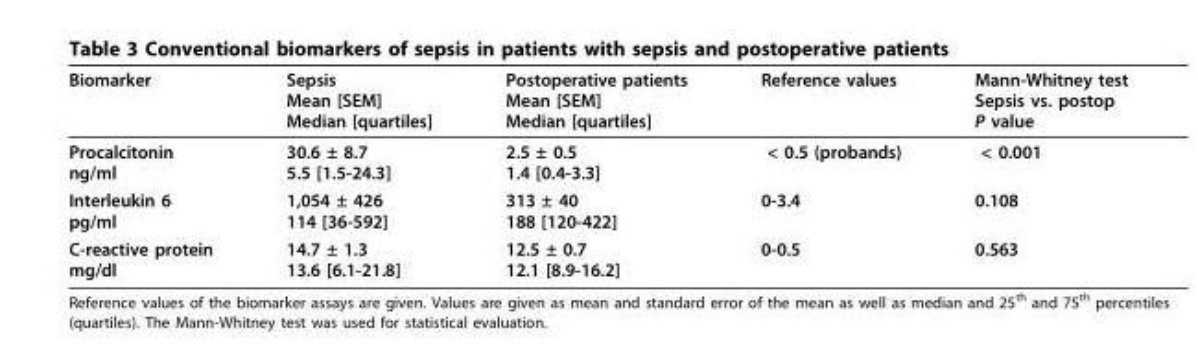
<table><thead><tr><td>Biomarker</td><td>Sepsis Mean [SEM] Median [quartiles]</td><td>Postoperative patients Mean [SEM] Median [quartiles]</td><td>Reference values</td><td>Mann-Whitney test Sepsis vs. postop P value</td></tr></thead><tbody><tr><td>Procalcitonin ng/ml</td><td>30.6 ± 8.7 5.5 [1.5-24.3]</td><td>2.5 ± 0.5 1.4 [0.4-3.3]</td><td>&lt; 0.5 (probands)</td><td>&lt; 0.001</td></tr><tr><td>Interleukin 6 pg/ml</td><td>1,054 ± 426 114 [36-592]</td><td>313 ± 40 188 [120-422]</td><td>0-3.4</td><td>0.108</td></tr><tr><td>C-reactive protein mg/dl</td><td>14.7 ± 1.3 13.6 [6.1-21.8]</td><td>12.5 ± 0.7 12.1 [8.9-16.2]</td><td>0-0.5</td><td>0.563</td></tr></tbody></table>